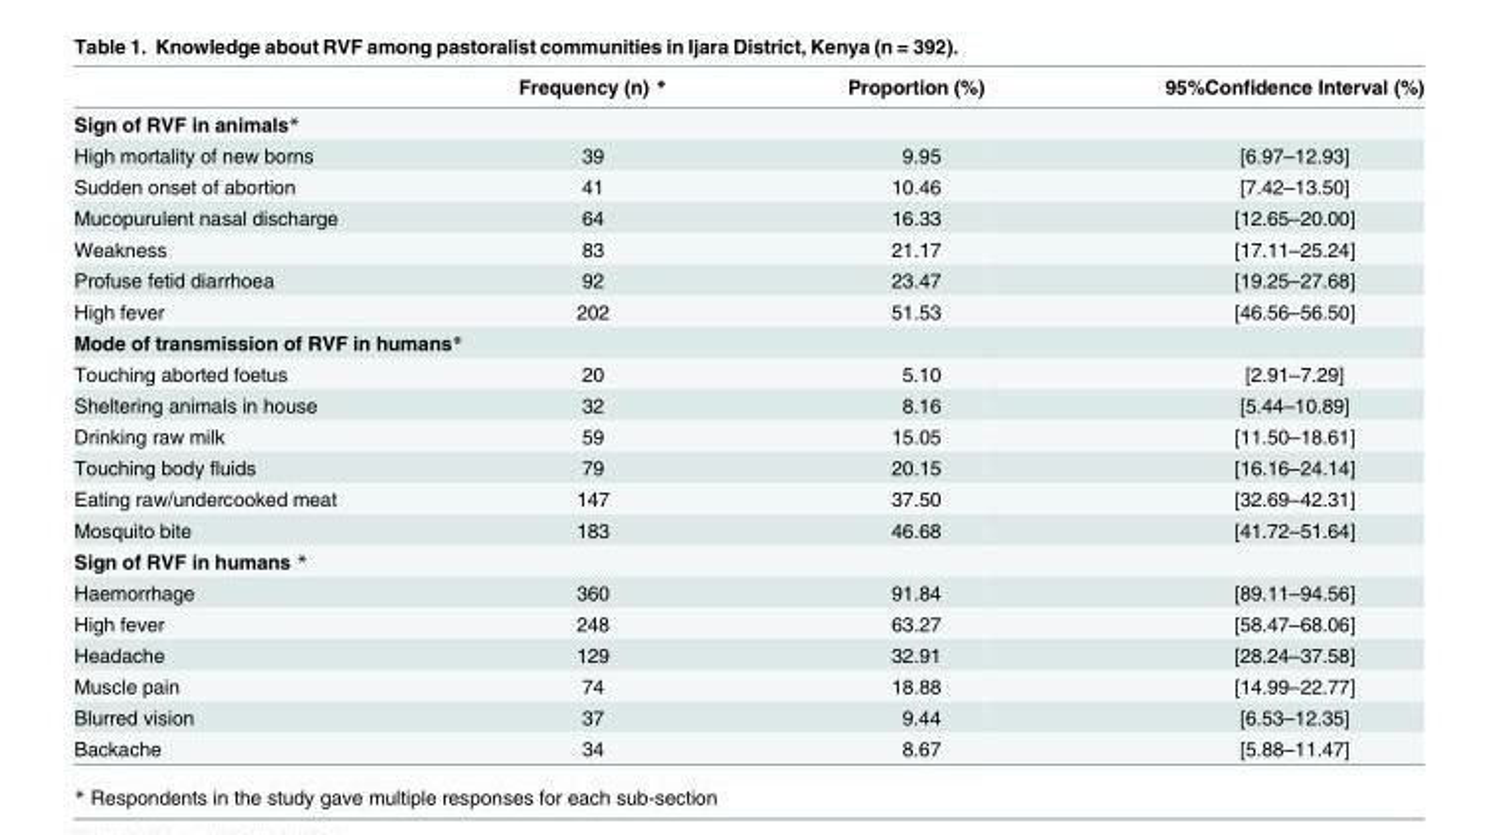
<table><thead><tr><td></td><td>Frequency (n) *</td><td>Proportion (%)</td><td>95%Confidence Interval (%)</td></tr></thead><tbody><tr><td colspan="4">Sign of RVF in animals*</td></tr><tr><td>High mortality of new borns</td><td>39</td><td>9.95</td><td>[6.97–12.93]</td></tr><tr><td>Sudden onset of abortion</td><td>41</td><td>10.46</td><td>[7.42–13.50]</td></tr><tr><td>Mucopurulent nasal discharge</td><td>64</td><td>16.33</td><td>[12.65–20.00]</td></tr><tr><td>Weakness</td><td>83</td><td>21.17</td><td>[17.11–25.24]</td></tr><tr><td>Profuse fetid diarrhoea</td><td>92</td><td>23.47</td><td>[19.25–27.68]</td></tr><tr><td>High fever</td><td>202</td><td>51.53</td><td>[46.56–56.50]</td></tr><tr><td colspan="4">Mode of transmission of RVF in humans*</td></tr><tr><td>Touching aborted foetus</td><td>20</td><td>5.10</td><td>[2.91–7.29]</td></tr><tr><td>Sheltering animals in house</td><td>32</td><td>8.16</td><td>[5.44–10.89]</td></tr><tr><td>Drinking raw milk</td><td>59</td><td>15.05</td><td>[11.50–18.61]</td></tr><tr><td>Touching body fluids</td><td>79</td><td>20.15</td><td>[16.16–24.14]</td></tr><tr><td>Eating raw/undercooked meat</td><td>147</td><td>37.50</td><td>[32.69–42.31]</td></tr><tr><td>Mosquito bite</td><td>183</td><td>46.68</td><td>[41.72–51.64]</td></tr><tr><td colspan="4">Sign of RVF in humans *</td></tr><tr><td>Haemorrhage</td><td>360</td><td>91.84</td><td>[89.11–94.56]</td></tr><tr><td>High fever</td><td>248</td><td>63.27</td><td>[58.47–68.06]</td></tr><tr><td>Headache</td><td>129</td><td>32.91</td><td>[28.24–37.58]</td></tr><tr><td>Muscle pain</td><td>74</td><td>18.88</td><td>[14.99–22.77]</td></tr><tr><td>Blurred vision</td><td>37</td><td>9.44</td><td>[6.53–12.35]</td></tr><tr><td>Backache</td><td>34</td><td>8.67</td><td>[5.88–11.47]</td></tr></tbody></table>